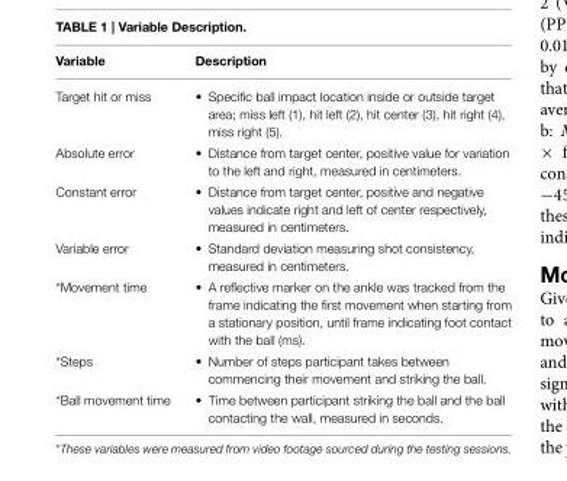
<table><thead><tr><td>Variable</td><td>Description</td></tr></thead><tbody><tr><td>Target hit or miss</td><td>• Specific ball impact location inside or outside target area; miss left (1), hit left (2), hit center (3), hit right (4), miss right (5).</td></tr><tr><td>Absolute error</td><td>• Distance from target center, positive value for variation to the left and right, measured in centimeters.</td></tr><tr><td>Constant error</td><td>• Distance from target center, positive and negative values indicate right and left of center respectively, measured in centimeters.</td></tr><tr><td>Variable error</td><td>• Standard deviation measuring shot consistency, measured in centimeters.</td></tr><tr><td>*Movement time</td><td>• A reflective marker on the ankle was tracked from the frame indicating the first movement when starting from a stationary position, until frame indicating foot contact with the ball (ms).</td></tr><tr><td>*Steps</td><td>• Number of steps participant takes between commencing their movement and striking the ball.</td></tr><tr><td>*Ball movement time</td><td>• Time between participant striking the ball and the ball contacting the wall, measured in seconds.</td></tr></tbody></table>